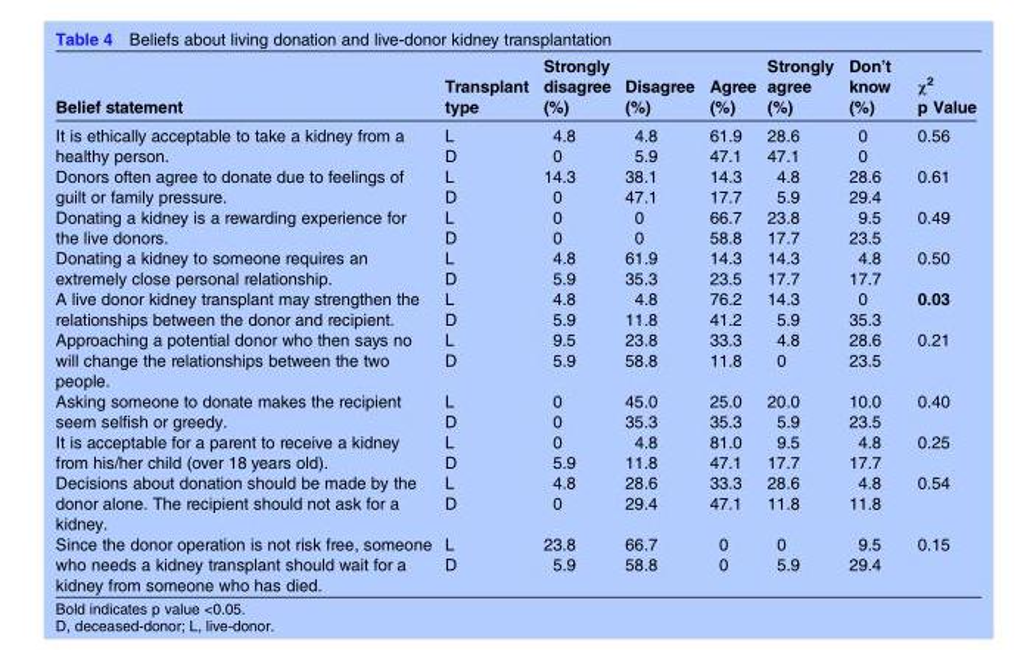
<table><thead><tr><td>Belief statement</td><td>Transplant type</td><td>Strongly disagree (%)</td><td>Disagree (%)</td><td>Agree (%)</td><td>Strongly agree (%)</td><td>Don’t know (%)</td><td>χ<sup>2</sup> p Value</td></tr></thead><tbody><tr><td rowspan="2">It is ethically acceptable to take a kidney from a healthy person.</td><td>L</td><td>4.8</td><td>4.8</td><td>61.9</td><td>28.6</td><td>0</td><td rowspan="2">0.56</td></tr><tr><td>D</td><td>0</td><td>5.9</td><td>47.1</td><td>47.1</td><td>0</td></tr><tr><td rowspan="2">Donors often agree to donate due to feelings of guilt or family pressure.</td><td>L</td><td>14.3</td><td>38.1</td><td>14.3</td><td>4.8</td><td>28.6</td><td rowspan="2">0.61</td></tr><tr><td>D</td><td>0</td><td>47.1</td><td>17.7</td><td>5.9</td><td>29.4</td></tr><tr><td rowspan="2">Donating a kidney is a rewarding experience for the live donors.</td><td>L</td><td>0</td><td>0</td><td>66.7</td><td>23.8</td><td>9.5</td><td rowspan="2">0.49</td></tr><tr><td>D</td><td>0</td><td>0</td><td>58.8</td><td>17.7</td><td>23.5</td></tr><tr><td rowspan="2">Donating a kidney to someone requires an extremely close personal relationship.</td><td>L</td><td>4.8</td><td>61.9</td><td>14.3</td><td>14.3</td><td>4.8</td><td rowspan="2">0.50</td></tr><tr><td>D</td><td>5.9</td><td>35.3</td><td>23.5</td><td>17.7</td><td>17.7</td></tr><tr><td rowspan="2">A live donor kidney transplant may strengthen the relationships between the donor and recipient.</td><td>L</td><td>4.8</td><td>4.8</td><td>76.2</td><td>14.3</td><td>0</td><td rowspan="2">0.03</td></tr><tr><td>D</td><td>5.9</td><td>11.8</td><td>41.2</td><td>5.9</td><td>35.3</td></tr><tr><td rowspan="2">Approaching a potential donor who then says no will change the relationships between the two people.</td><td>L</td><td>9.5</td><td>23.8</td><td>33.3</td><td>4.8</td><td>28.6</td><td rowspan="2">0.21</td></tr><tr><td>D</td><td>5.9</td><td>58.8</td><td>11.8</td><td>0</td><td>23.5</td></tr><tr><td rowspan="2">Asking someone to donate makes the recipient seem selfish or greedy.</td><td>L</td><td>0</td><td>45.0</td><td>25.0</td><td>20.0</td><td>10.0</td><td rowspan="2">0.40</td></tr><tr><td>D</td><td>0</td><td>35.3</td><td>35.3</td><td>5.9</td><td>23.5</td></tr><tr><td rowspan="2">It is acceptable for a parent to receive a kidney from his/her child (over 18 years old).</td><td>L</td><td>0</td><td>4.8</td><td>81.0</td><td>9.5</td><td>4.8</td><td rowspan="2">0.25</td></tr><tr><td>D</td><td>5.9</td><td>11.8</td><td>47.1</td><td>17.7</td><td>17.7</td></tr><tr><td rowspan="2">Decisions about donation should be made by the donor alone. The recipient should not ask for a kidney.</td><td>L</td><td>4.8</td><td>28.6</td><td>33.3</td><td>28.6</td><td>4.8</td><td rowspan="2">0.54</td></tr><tr><td>D</td><td>0</td><td>29.4</td><td>47.1</td><td>11.8</td><td>11.8</td></tr><tr><td rowspan="2">Since the donor operation is not risk free, someone who needs a kidney transplant should wait for a kidney from someone who has died.</td><td>L</td><td>23.8</td><td>66.7</td><td>0</td><td>0</td><td>9.5</td><td rowspan="2">0.15</td></tr><tr><td>D</td><td>5.9</td><td>58.8</td><td>0</td><td>5.9</td><td>29.4</td></tr></tbody></table>